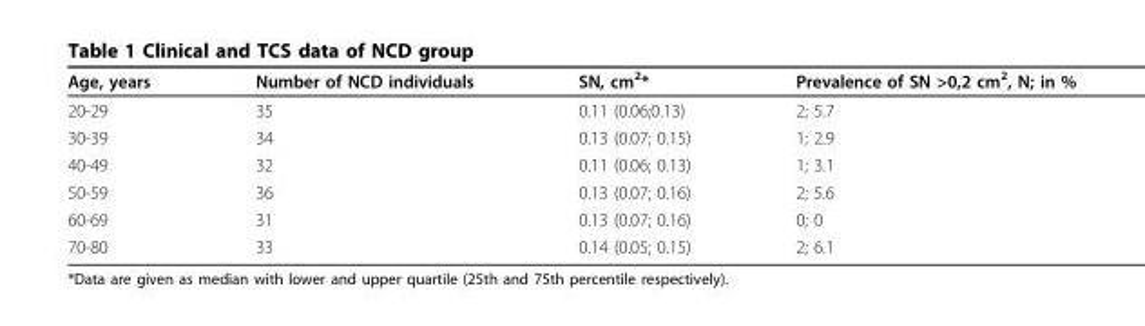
<table><thead><tr><td>Age, years</td><td>Number of NCD individuals</td><td>SN, cm<sup>2</sup>*</td><td>Prevalence of SN &gt;0,2 cm<sup>2</sup>, N; in %</td></tr></thead><tbody><tr><td>20-29</td><td>35</td><td>0.11 (0.06;0.13)</td><td>2; 5.7</td></tr><tr><td>30-39</td><td>34</td><td>0.13 (0.07; 0.15)</td><td>1; 2.9</td></tr><tr><td>40-49</td><td>32</td><td>0.11 (0.06; 0.13)</td><td>1; 3.1</td></tr><tr><td>50-59</td><td>36</td><td>0.13 (0.07; 0.16)</td><td>2; 5.6</td></tr><tr><td>60-69</td><td>31</td><td>0.13 (0.07; 0.16)</td><td>0; 0</td></tr><tr><td>70-80</td><td>33</td><td>0.14 (0.05; 0.15)</td><td>2; 6.1</td></tr></tbody></table>